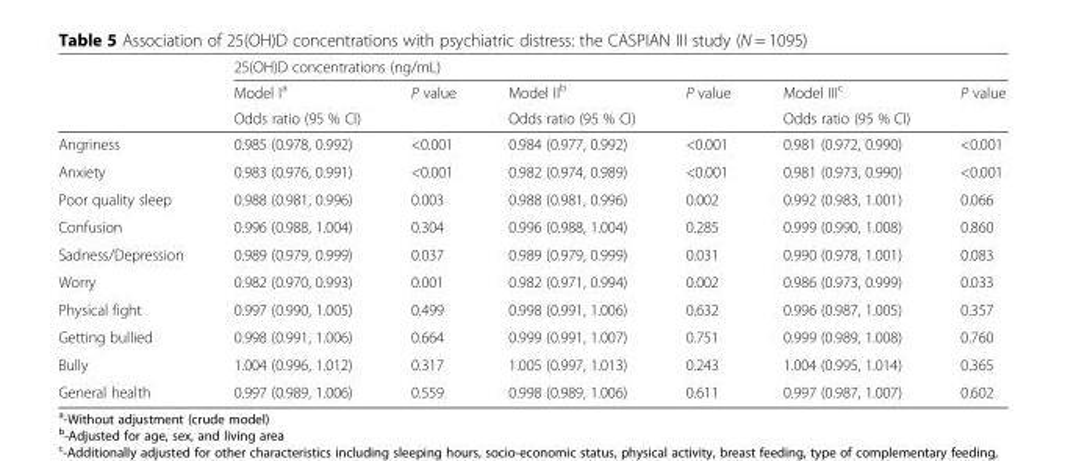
<table><thead><tr><td rowspan="3"></td><td colspan="6">25(OH)D concentrations (ng/mL)</td></tr><tr><td rowspan="2">Model I<sup>a</sup> Odds ratio (95 % CI)</td><td rowspan="2">P value</td><td rowspan="2">Model II<sup>b</sup> Odds ratio (95 % CI)</td><td rowspan="2">P value</td><td rowspan="2">Model III<sup>c</sup> Odds ratio (95 % CI)</td><td rowspan="2">P value</td></tr><tr></tr></thead><tbody><tr><td>Angriness</td><td>0.985 (0.978, 0.992)</td><td>&lt;0.001</td><td>0.984 (0.977, 0.992)</td><td>&lt;0.001</td><td>0.981 (0.972, 0.990)</td><td>&lt;0.001</td></tr><tr><td>Anxiety</td><td>0.983 (0.976, 0.991)</td><td>&lt;0.001</td><td>0.982 (0.974, 0.989)</td><td>&lt;0.001</td><td>0.981 (0.973, 0.990)</td><td>&lt;0.001</td></tr><tr><td>Poor quality sleep</td><td>0.988 (0.981, 0.996)</td><td>0.003</td><td>0.988 (0.981, 0.996)</td><td>0.002</td><td>0.992 (0.983, 1.001)</td><td>0.066</td></tr><tr><td>Confusion</td><td>0.996 (0.988, 1.004)</td><td>0.304</td><td>0.996 (0.988, 1.004)</td><td>0.285</td><td>0.999 (0.990, 1.008)</td><td>0.860</td></tr><tr><td>Sadness/Depression</td><td>0.989 (0.979, 0.999)</td><td>0.037</td><td>0.989 (0.979, 0.999)</td><td>0.031</td><td>0.990 (0.978, 1.001)</td><td>0.083</td></tr><tr><td>Worry</td><td>0.982 (0.970, 0.993)</td><td>0.001</td><td>0.982 (0.971, 0.994)</td><td>0.002</td><td>0.986 (0.973, 0.999)</td><td>0.033</td></tr><tr><td>Physical fight</td><td>0.997 (0.990, 1.005)</td><td>0.499</td><td>0.998 (0.991, 1.006)</td><td>0.632</td><td>0.996 (0.987, 1.005)</td><td>0.357</td></tr><tr><td>Getting bullied</td><td>0.998 (0.991, 1.006)</td><td>0.664</td><td>0.999 (0.991, 1.007)</td><td>0.751</td><td>0.999 (0.989, 1.008)</td><td>0.760</td></tr><tr><td>Bully</td><td>1.004 (0.996, 1.012)</td><td>0.317</td><td>1.005 (0.997, 1.013)</td><td>0.243</td><td>1.004 (0.995, 1.014)</td><td>0.365</td></tr><tr><td>General health</td><td>0.997 (0.989, 1.006)</td><td>0.559</td><td>0.998 (0.989, 1.006)</td><td>0.611</td><td>0.997 (0.987, 1.007)</td><td>0.602</td></tr></tbody></table>